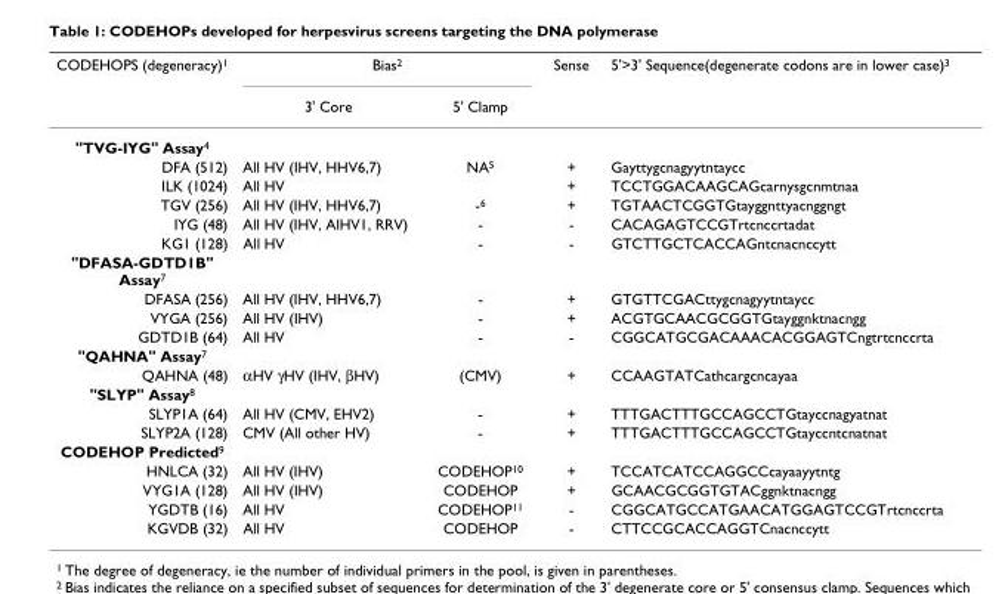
<table><thead><tr><td rowspan="2">CODEHOPS (degeneracy)<sup>1</sup></td><td colspan="2">Bias<sup>2</sup></td><td rowspan="2">Sense</td><td rowspan="2">5&#x27;&gt;3&#x27; Sequence(degenerate codons are in lower case)<sup>3</sup></td></tr><tr><td>3&#x27; Core</td><td>5&#x27; Clamp</td></tr></thead><tbody><tr><td colspan="5">&quot;TVG-IYG&quot; Assay<sup>4</sup></td></tr><tr><td>DFA (512)</td><td>All HV (IHV, HHV6,7)</td><td>NA<sup>5</sup></td><td>+</td><td>Gayttygcnagyytntaycc</td></tr><tr><td>ILK (1024)</td><td>All HV</td><td></td><td>+</td><td>TCCTGGACAAGCAGcarnysgcnmtnaa</td></tr><tr><td>TGV (256)</td><td>All HV (IHV, HHV6,7)</td><td>-<sup>6</sup></td><td>+</td><td>TGTAACTCGGTGtayggnttyacnggngt</td></tr><tr><td>IYG (48)</td><td>All HV (IHV, AlHV1, RRV)</td><td>-</td><td>-</td><td>CACAGAGTCCGTrtcnccrtadat</td></tr><tr><td>KG1 (128)</td><td>All HV</td><td>-</td><td>-</td><td>GTCTTGCTCACCAGntcnacnccytt</td></tr><tr><td colspan="5">&quot;DFASA-GDTD1B&quot; Assay<sup>7</sup></td></tr><tr><td>DFASA (256)</td><td>All HV (IHV, HHV6,7)</td><td>-</td><td>+</td><td>GTGTTCGACttygcnagyytntaycc</td></tr><tr><td>VYGA (256)</td><td>All HV (IHV)</td><td>-</td><td>+</td><td>ACGTGCAACGCGGTGtayggnktnacngg</td></tr><tr><td>GDTD1B (64)</td><td>All HV</td><td>-</td><td>-</td><td>CGGCATGCGACAAACACGGAGTCngtrtcnccrta</td></tr><tr><td colspan="5">&quot;QAHNA&quot; Assay<sup>7</sup></td></tr><tr><td>QAHNA (48)</td><td>αHV γHV (IHV, βHV)</td><td>(CMV)</td><td>+</td><td>CCAAGTATCathcargcncayaa</td></tr><tr><td colspan="5">&quot;SLYP&quot; Assay<sup>8</sup></td></tr><tr><td>SLYP1A (64)</td><td>All HV (CMV, EHV2)</td><td>-</td><td>+</td><td>TTTGACTTTGCCAGCCTGtayccnagyatnat</td></tr><tr><td>SLYP2A (128)</td><td>CMV (All other HV)</td><td>-</td><td>+</td><td>TTTGACTTTGCCAGCCTGtayccntcnatnat</td></tr><tr><td colspan="5">CODEHOP Predicted<sup>9</sup></td></tr><tr><td>HNLCA (32)</td><td>All HV (IHV)</td><td>CODEHOP<sup>10</sup></td><td>+</td><td>TCCATCATCCAGGCCcayaayytntg</td></tr><tr><td>VYG1A (128)</td><td>All HV (IHV)</td><td>CODEHOP</td><td>+</td><td>GCAACGCGGTGTACggnktnacngg</td></tr><tr><td>YGDTB (16)</td><td>All HV</td><td>CODEHOP<sup>11</sup></td><td>-</td><td>CGGCATGCCATGAACATGGAGTCCGTrtcnccrta</td></tr><tr><td>KGVDB (32)</td><td>All HV</td><td>CODEHOP</td><td>-</td><td>CTTCCGCACCAGGTCnacnccytt</td></tr></tbody></table>